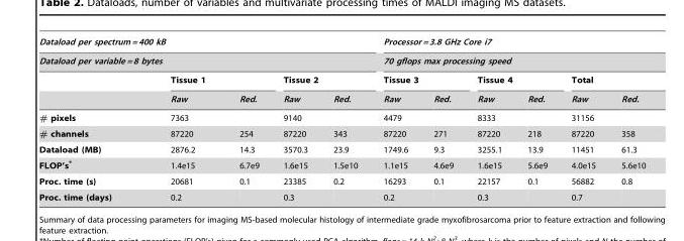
<table><thead><tr><td rowspan="2" colspan="5">Dataload per spectrum = 400 kB Dataload per variable = 8 bytes</td><td rowspan="2" colspan="6">Processor = 3.8 GHz Core i7 70 gflops max processing speed</td></tr><tr></tr><tr><td rowspan="2"></td><td colspan="2">Tissue 1</td><td colspan="2">Tissue 2</td><td colspan="2">Tissue 3</td><td colspan="2">Tissue 4</td><td colspan="2">Total</td></tr><tr><td>Raw</td><td>Red.</td><td>Raw</td><td>Red.</td><td>Raw</td><td>Red.</td><td>Raw</td><td>Red.</td><td>Raw</td><td>Red.</td></tr></thead><tbody><tr><td># pixels</td><td>7363</td><td></td><td>9140</td><td></td><td>4479</td><td></td><td>8333</td><td></td><td>31156</td><td></td></tr><tr><td># channels</td><td>87220</td><td>254</td><td>87220</td><td>343</td><td>87220</td><td>271</td><td>87220</td><td>218</td><td>87220</td><td>358</td></tr><tr><td>Dataload (MB)</td><td>2876.2</td><td>14.3</td><td>3570.3</td><td>23.9</td><td>1749.6</td><td>9.3</td><td>3255.1</td><td>13.9</td><td>11451</td><td>61.3</td></tr><tr><td>FLOP’s*</td><td>1.4e15</td><td>6.7e9</td><td>1.6e15</td><td>1.5e10</td><td>1.1e15</td><td>4.6e9</td><td>1.6e15</td><td>5.6e9</td><td>4.0e15</td><td>5.6e10</td></tr><tr><td>Proc. time (s)</td><td>20681</td><td>0.1</td><td>23385</td><td>0.2</td><td>16293</td><td>0.1</td><td>22157</td><td>0.1</td><td>56882</td><td>0.8</td></tr><tr><td>Proc. time (days)</td><td>0.2</td><td></td><td>0.3</td><td></td><td>0.2</td><td></td><td>0.3</td><td></td><td>0.7</td><td></td></tr></tbody></table>